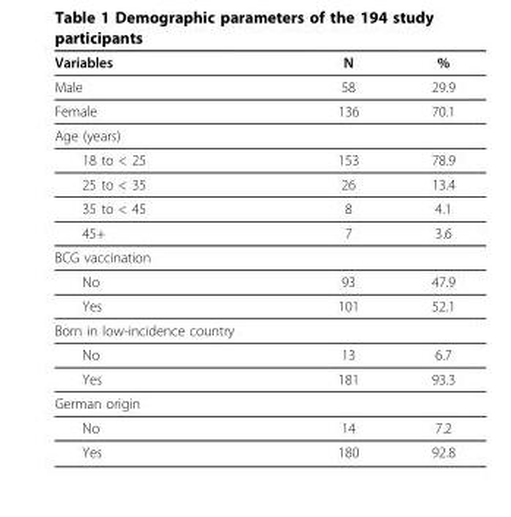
<table><thead><tr><td>Variables</td><td>N</td><td>%</td></tr></thead><tbody><tr><td>Male</td><td>58</td><td>29.9</td></tr><tr><td>Female</td><td>136</td><td>70.1</td></tr><tr><td colspan="3">Age (years)</td></tr><tr><td>18 to &lt; 25</td><td>153</td><td>78.9</td></tr><tr><td>25 to &lt; 35</td><td>26</td><td>13.4</td></tr><tr><td>35 to &lt; 45</td><td>8</td><td>4.1</td></tr><tr><td>45+</td><td>7</td><td>3.6</td></tr><tr><td colspan="3">BCG vaccination</td></tr><tr><td>No</td><td>93</td><td>47.9</td></tr><tr><td>Yes</td><td>101</td><td>52.1</td></tr><tr><td colspan="3">Born in low-incidence country</td></tr><tr><td>No</td><td>13</td><td>6.7</td></tr><tr><td>Yes</td><td>181</td><td>93.3</td></tr><tr><td colspan="3">German origin</td></tr><tr><td>No</td><td>14</td><td>7.2</td></tr><tr><td>Yes</td><td>180</td><td>92.8</td></tr></tbody></table>